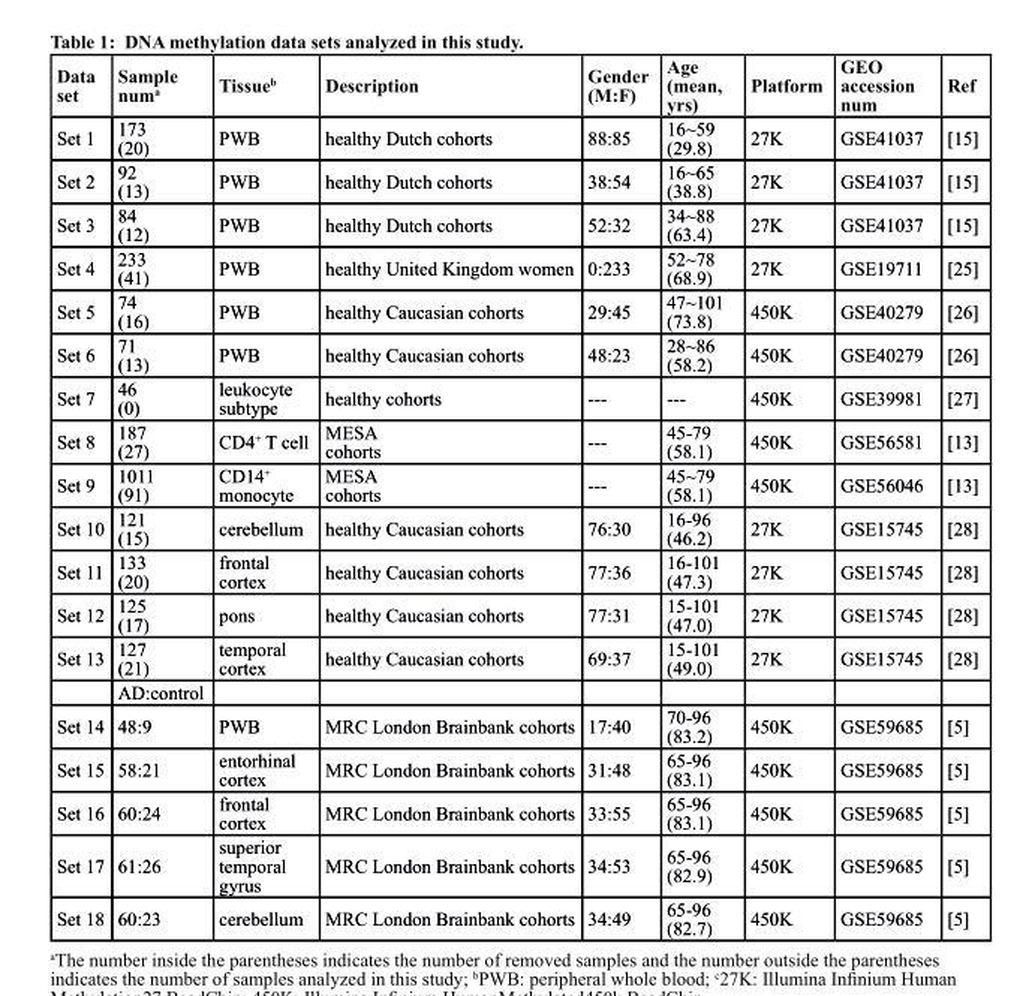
<table><thead><tr><td>Data set</td><td>Sample num<sup>a</sup></td><td>Tissue<sup>b</sup></td><td>Description</td><td>Gender (M:F)</td><td>Age (mean, yrs)</td><td>Platform</td><td>Geo accession num</td><td>Ref</td></tr></thead><tbody><tr><td>Set 1</td><td>173 (20)</td><td>PWB</td><td>healthy Dutch cohorts</td><td>88:85</td><td>16~59 (29.8)</td><td>27K</td><td>GSE41037</td><td>[15]</td></tr><tr><td>Set 2</td><td>92 (13)</td><td>PWB</td><td>healthy Dutch cohorts</td><td>38:54</td><td>16~65 (38.8)</td><td>27K</td><td>GSE41037</td><td>[15]</td></tr><tr><td>Set 3</td><td>84 (12)</td><td>PWB</td><td>healthy Dutch cohorts</td><td>52:32</td><td>34~88 (63.4)</td><td>27K</td><td>GSE41037</td><td>[15]</td></tr><tr><td>Set 4</td><td>233 (41)</td><td>PWB</td><td>healthy United Kingdom women</td><td>0:233</td><td>52~78 (68.9)</td><td>27K</td><td>GSE19711</td><td>[25]</td></tr><tr><td>Set 5</td><td>74 (16)</td><td>PWB</td><td>healthy Caucasian cohorts</td><td>29:45</td><td>47~101 (73.8)</td><td>450K</td><td>GSE40279</td><td>[26]</td></tr><tr><td>Set 6</td><td>71 (13)</td><td>PWB</td><td>healthy Caucasian cohorts</td><td>48:23</td><td>28~86 (58.2)</td><td>450K</td><td>GSE40279</td><td>[26]</td></tr><tr><td>Set 7</td><td>46 (0)</td><td>leukocyte subtype</td><td>healthy cohorts</td><td>---</td><td>---</td><td>450K</td><td>GSE39981</td><td>[27]</td></tr><tr><td>Set 8</td><td>187 (27)</td><td>CD4<sup>+</sup> T cell</td><td>MESA cohorts</td><td>---</td><td>45-79 (58.1)</td><td>450K</td><td>GSE56581</td><td>[13]</td></tr><tr><td>Set 9</td><td>1011 (91)</td><td>CD14<sup>+</sup> monocyte</td><td>MESA cohorts</td><td>---</td><td>45~79 (58.1)</td><td>450K</td><td>GSE56046</td><td>[13]</td></tr><tr><td>Set 10</td><td>121 (15)</td><td>cerebellum</td><td>healthy Caucasian cohorts</td><td>76:30</td><td>16-96 (46.2)</td><td>27K</td><td>GSE15745</td><td>[28]</td></tr><tr><td>Set 11</td><td>133 (20)</td><td>frontal cortex</td><td>healthy Caucasian cohorts</td><td>77:36</td><td>16-101 (47.3)</td><td>27K</td><td>GSE15745</td><td>[28]</td></tr><tr><td>Set 12</td><td>125 (17)</td><td>pons</td><td>healthy Caucasian cohorts</td><td>77:31</td><td>15-101 (47.0)</td><td>27K</td><td>GSE15745</td><td>[28]</td></tr><tr><td rowspan="2">Set 13</td><td>127 (21)</td><td>temporal cortex</td><td>healthy Caucasian cohorts</td><td>69:37</td><td>15-101 (49.0)</td><td>27K</td><td>GSE15745</td><td>[28]</td></tr><tr><td>AD:control</td><td></td><td></td><td></td><td></td><td></td><td></td><td></td></tr><tr><td>Set 14</td><td>48:9</td><td>PWB</td><td>MRC London Brainbank cohorts</td><td>17:40</td><td>70-96 (83.2)</td><td>450K</td><td>GSE59685</td><td>[5]</td></tr><tr><td>Set 15</td><td>58:21</td><td>entorhinal cortex</td><td>MRC London Brainbank cohorts</td><td>31:48</td><td>65-96 (83.1)</td><td>450K</td><td>GSE59685</td><td>[5]</td></tr><tr><td>Set 16</td><td>60:24</td><td>frontal cortex</td><td>MRC London Brainbank cohorts</td><td>33:55</td><td>65-96 (83.1)</td><td>450K</td><td>GSE59685</td><td>[5]</td></tr><tr><td>Set 17</td><td>61:26</td><td>superior temporal gyrus</td><td>MRC London Brainbank cohorts</td><td>34:53</td><td>65-96 (82.9)</td><td>450K</td><td>GSE59685</td><td>[5]</td></tr><tr><td>Set 18</td><td>60:23</td><td>cerebellum</td><td>MRC London Brainbank cohorts</td><td>34:49</td><td>65-96 (82.7)</td><td>450K</td><td>GSE59685</td><td>[5]</td></tr></tbody></table>